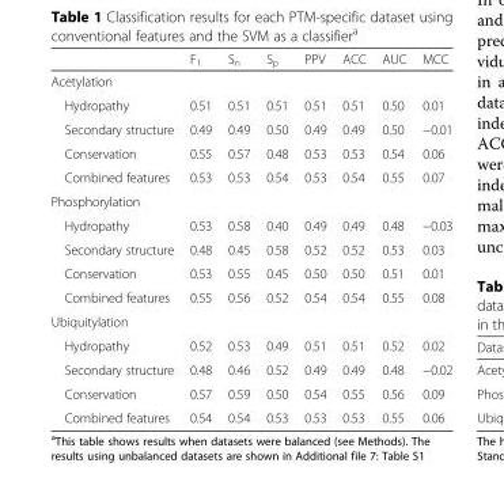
<table><thead><tr><td></td><td>F<sub>1</sub></td><td>S<sub>n</sub></td><td>S<sub>p</sub></td><td>PPV</td><td>ACC</td><td>AUC</td><td>MCC</td></tr></thead><tbody><tr><td colspan="8">Acetylation</td></tr><tr><td>Hydropathy</td><td>0.51</td><td>0.51</td><td>0.51</td><td>0.51</td><td>0.51</td><td>0.50</td><td>0.01</td></tr><tr><td>Secondary structure</td><td>0.49</td><td>0.49</td><td>0.50</td><td>0.49</td><td>0.49</td><td>0.50</td><td>−0.01</td></tr><tr><td>Conservation</td><td>0.55</td><td>0.57</td><td>0.48</td><td>0.53</td><td>0.53</td><td>0.54</td><td>0.06</td></tr><tr><td>Combined features</td><td>0.53</td><td>0.53</td><td>0.54</td><td>0.53</td><td>0.54</td><td>0.55</td><td>0.07</td></tr><tr><td colspan="8">Phosphorylation</td></tr><tr><td>Hydropathy</td><td>0.53</td><td>0.58</td><td>0.40</td><td>0.49</td><td>0.49</td><td>0.48</td><td>−0.03</td></tr><tr><td>Secondary structure</td><td>0.48</td><td>0.45</td><td>0.58</td><td>0.52</td><td>0.52</td><td>0.53</td><td>0.03</td></tr><tr><td>Conservation</td><td>0.53</td><td>0.55</td><td>0.45</td><td>0.50</td><td>0.50</td><td>0.51</td><td>0.01</td></tr><tr><td>Combined features</td><td>0.55</td><td>0.56</td><td>0.52</td><td>0.54</td><td>0.54</td><td>0.55</td><td>0.08</td></tr><tr><td colspan="8">Ubiquitylation</td></tr><tr><td>Hydropathy</td><td>0.52</td><td>0.53</td><td>0.49</td><td>0.51</td><td>0.51</td><td>0.52</td><td>0.02</td></tr><tr><td>Secondary structure</td><td>0.48</td><td>0.46</td><td>0.52</td><td>0.49</td><td>0.49</td><td>0.48</td><td>−0.02</td></tr><tr><td>Conservation</td><td>0.57</td><td>0.59</td><td>0.50</td><td>0.54</td><td>0.55</td><td>0.56</td><td>0.09</td></tr><tr><td>Combined features</td><td>0.54</td><td>0.54</td><td>0.53</td><td>0.53</td><td>0.53</td><td>0.55</td><td>0.06</td></tr></tbody></table>